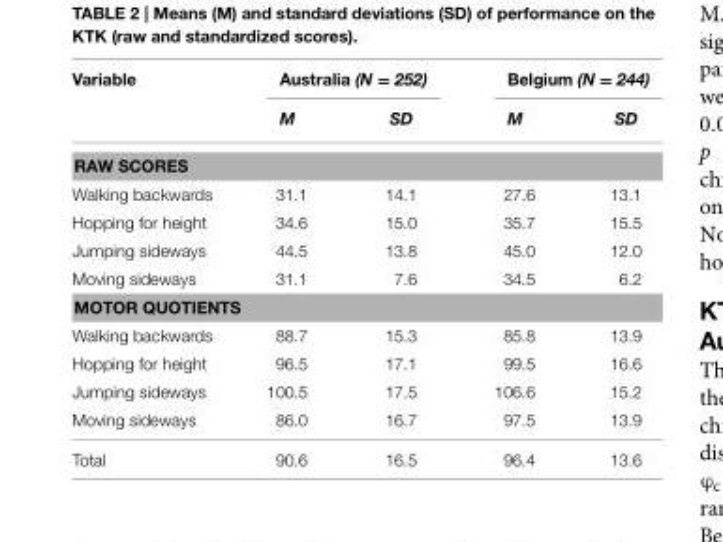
<table><thead><tr><td rowspan="2">Variable</td><td colspan="2">Australia (N = 252)</td><td colspan="2">Belgium (N = 244)</td></tr><tr><td>M</td><td>SD</td><td>M</td><td>SD</td></tr></thead><tbody><tr><td colspan="5">RAW SCORES</td></tr><tr><td>Walking backwards</td><td>31.1</td><td>14.1</td><td>27.6</td><td>13.1</td></tr><tr><td>Hopping for height</td><td>34.6</td><td>15.0</td><td>35.7</td><td>15.5</td></tr><tr><td>Jumping sideways</td><td>44.5</td><td>13.8</td><td>45.0</td><td>12.0</td></tr><tr><td>Moving sideways</td><td>31.1</td><td>7.6</td><td>34.5</td><td>6.2</td></tr><tr><td colspan="5">MOTOR QUOTIENTS</td></tr><tr><td>Walking backwards</td><td>88.7</td><td>15.3</td><td>85.8</td><td>13.9</td></tr><tr><td>Hopping for height</td><td>96.5</td><td>17.1</td><td>99.5</td><td>16.6</td></tr><tr><td>Jumping sideways</td><td>100.5</td><td>17.5</td><td>106.6</td><td>15.2</td></tr><tr><td>Moving sideways</td><td>86.0</td><td>16.7</td><td>97.5</td><td>13.9</td></tr><tr><td>Total</td><td>90.6</td><td>16.5</td><td>96.4</td><td>13.6</td></tr></tbody></table>